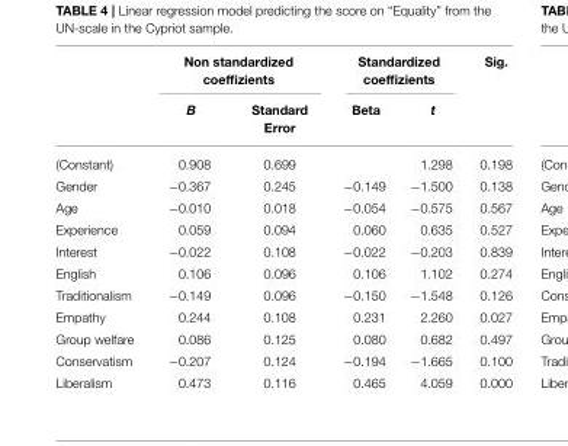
<table><thead><tr><td rowspan="2"></td><td colspan="2">Non standardized coeffizients</td><td colspan="2">Standardized coeffizients</td><td rowspan="2">Sig.</td></tr><tr><td>B</td><td>Standard Error</td><td>Beta</td><td>t</td></tr></thead><tbody><tr><td>(Constant)</td><td>0.908</td><td>0.699</td><td></td><td>1.298</td><td>0.198</td></tr><tr><td>Gender</td><td>−0.367</td><td>0.245</td><td>−0.149</td><td>−1.500</td><td>0.138</td></tr><tr><td>Age</td><td>−0.010</td><td>0.018</td><td>−0.054</td><td>−0.575</td><td>0.567</td></tr><tr><td>Experience</td><td>0.059</td><td>0.094</td><td>0.060</td><td>0.635</td><td>0.527</td></tr><tr><td>Interest</td><td>−0.022</td><td>0.108</td><td>−0.022</td><td>−0.203</td><td>0.839</td></tr><tr><td>English</td><td>0.106</td><td>0.096</td><td>0.106</td><td>1.102</td><td>0.274</td></tr><tr><td>Traditionalism</td><td>−0.149</td><td>0.096</td><td>−0.150</td><td>−1.548</td><td>0.126</td></tr><tr><td>Empathy</td><td>0.244</td><td>0.108</td><td>0.231</td><td>2.260</td><td>0.027</td></tr><tr><td>Group welfare</td><td>0.086</td><td>0.125</td><td>0.080</td><td>0.682</td><td>0.497</td></tr><tr><td>Conservatism</td><td>−0.207</td><td>0.124</td><td>−0.194</td><td>−1.665</td><td>0.100</td></tr><tr><td>Liberalism</td><td>0.473</td><td>0.116</td><td>0.465</td><td>4.059</td><td>0.000</td></tr></tbody></table>